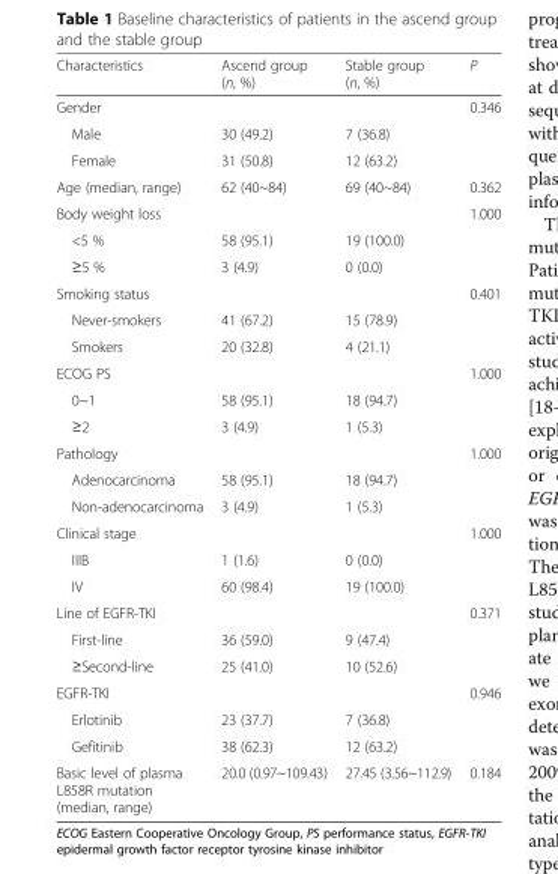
<table><thead><tr><td>Characteristics</td><td>Ascend group (n, %)</td><td>Stable group (n, %)</td><td>P</td></tr></thead><tbody><tr><td>Gender</td><td></td><td></td><td>0.346</td></tr><tr><td>Male</td><td>30 (49.2)</td><td>7 (36.8)</td><td></td></tr><tr><td>Female</td><td>31 (50.8)</td><td>12 (63.2)</td><td></td></tr><tr><td>Age (median, range)</td><td>62 (40~84)</td><td>69 (40~84)</td><td>0.362</td></tr><tr><td>Body weight loss</td><td></td><td></td><td>1.000</td></tr><tr><td>&lt;5 %</td><td>58 (95.1)</td><td>19 (100.0)</td><td></td></tr><tr><td>≥5 %</td><td>3 (4.9)</td><td>0 (0.0)</td><td></td></tr><tr><td>Smoking status</td><td></td><td></td><td>0.401</td></tr><tr><td>Never-smokers</td><td>41 (67.2)</td><td>15 (78.9)</td><td></td></tr><tr><td>Smokers</td><td>20 (32.8)</td><td>4 (21.1)</td><td></td></tr><tr><td>ECOG PS</td><td></td><td></td><td>1.000</td></tr><tr><td>0~1</td><td>58 (95.1)</td><td>18 (94.7)</td><td></td></tr><tr><td>≥2</td><td>3 (4.9)</td><td>1 (5.3)</td><td></td></tr><tr><td>Pathology</td><td></td><td></td><td>1.000</td></tr><tr><td>Adenocarcinoma</td><td>58 (95.1)</td><td>18 (94.7)</td><td></td></tr><tr><td>Non-adenocarcinoma</td><td>3 (4.9)</td><td>1 (5.3)</td><td></td></tr><tr><td>Clinical stage</td><td></td><td></td><td>1.000</td></tr><tr><td>IIIB</td><td>1 (1.6)</td><td>0 (0.0)</td><td></td></tr><tr><td>IV</td><td>60 (98.4)</td><td>19 (100.0)</td><td></td></tr><tr><td>Line of EGFR-TKI</td><td></td><td></td><td>0.371</td></tr><tr><td>First-line</td><td>36 (59.0)</td><td>9 (47.4)</td><td></td></tr><tr><td>≥Second-line</td><td>25 (41.0)</td><td>10 (52.6)</td><td></td></tr><tr><td>EGFR-TKI</td><td></td><td></td><td>0.946</td></tr><tr><td>Erlotinib</td><td>23 (37.7)</td><td>7 (36.8)</td><td></td></tr><tr><td>Gefitinib</td><td>38 (62.3)</td><td>12 (63.2)</td><td></td></tr><tr><td>Basic level of plasma L858R mutation (median, range)</td><td>20.0 (0.97~109.43)</td><td>27.45 (3.56~112.9)</td><td>0.184</td></tr></tbody></table>